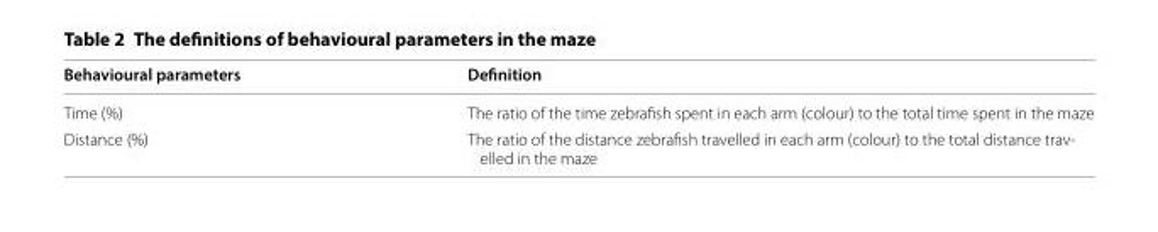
<table><thead><tr><td>Behavioural parameters</td><td>Definition</td></tr></thead><tbody><tr><td>Time (%)</td><td>The ratio of the time zebrafish spent in each arm (colour) to the total time spent in the maze</td></tr><tr><td>Distance (%)</td><td>The ratio of the distance zebrafish travelled in each arm (colour) to the total distance trav- elled in the maze</td></tr></tbody></table>